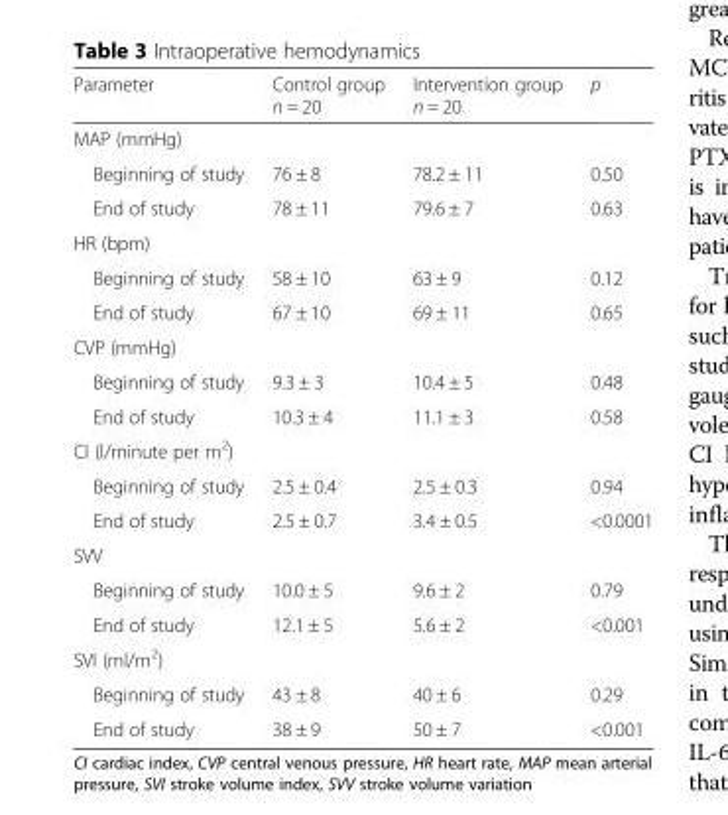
<table><thead><tr><td>Parameter</td><td>Control group n = 20</td><td>Intervention group n = 20</td><td>p</td></tr></thead><tbody><tr><td colspan="4">MAP (mmHg)</td></tr><tr><td>Beginning of study</td><td>76 ± 8</td><td>78.2 ± 11</td><td>0.50</td></tr><tr><td>End of study</td><td>78 ± 11</td><td>79.6 ± 7</td><td>0.63</td></tr><tr><td colspan="4">HR (bpm)</td></tr><tr><td>Beginning of study</td><td>58 ± 10</td><td>63 ± 9</td><td>0.12</td></tr><tr><td>End of study</td><td>67 ± 10</td><td>69 ± 11</td><td>0.65</td></tr><tr><td colspan="4">CVP (mmHg)</td></tr><tr><td>Beginning of study</td><td>9.3 ± 3</td><td>10.4 ± 5</td><td>0.48</td></tr><tr><td>End of study</td><td>10.3 ± 4</td><td>11.1 ± 3</td><td>0.58</td></tr><tr><td colspan="4">CI (l/minute per m<sup>2</sup>)</td></tr><tr><td>Beginning of study</td><td>2.5 ± 0.4</td><td>2.5 ± 0.3</td><td>0.94</td></tr><tr><td>End of study</td><td>2.5 ± 0.7</td><td>3.4 ± 0.5</td><td>&lt;0.0001</td></tr><tr><td colspan="4">SVV</td></tr><tr><td>Beginning of study</td><td>10.0 ± 5</td><td>9.6 ± 2</td><td>0.79</td></tr><tr><td>End of study</td><td>12.1 ± 5</td><td>5.6 ± 2</td><td>&lt;0.001</td></tr><tr><td colspan="4">SVI (ml/m<sup>2</sup>)</td></tr><tr><td>Beginning of study</td><td>43 ± 8</td><td>40 ± 6</td><td>0.29</td></tr><tr><td>End of study</td><td>38 ± 9</td><td>50 ± 7</td><td>&lt;0.001</td></tr></tbody></table>